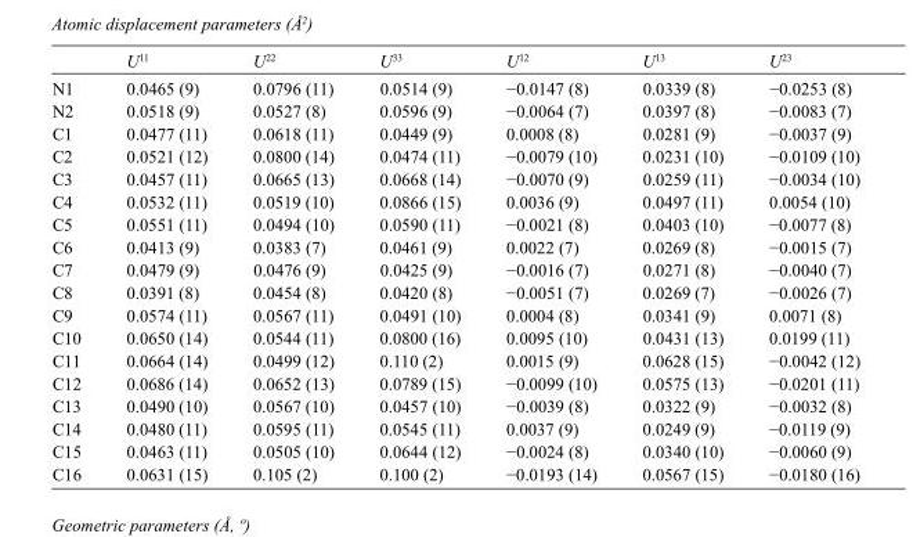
<table><thead><tr><td></td><td>U<sup>11</sup></td><td>U<sup>22</sup></td><td>U<sup>33</sup></td><td>U<sup>12</sup></td><td>U<sup>13</sup></td><td>U<sup>23</sup></td></tr></thead><tbody><tr><td>N1</td><td>0.0465 (9)</td><td>0.0796 (11)</td><td>0.0514 (9)</td><td>−0.0147 (8)</td><td>0.0339 (8)</td><td>−0.0253 (8)</td></tr><tr><td>N2</td><td>0.0518 (9)</td><td>0.0527 (8)</td><td>0.0596 (9)</td><td>−0.0064 (7)</td><td>0.0397 (8)</td><td>−0.0083 (7)</td></tr><tr><td>C1</td><td>0.0477 (11)</td><td>0.0618 (11)</td><td>0.0449 (9)</td><td>0.0008 (8)</td><td>0.0281 (9)</td><td>−0.0037 (9)</td></tr><tr><td>C2</td><td>0.0521 (12)</td><td>0.0800 (14)</td><td>0.0474 (11)</td><td>−0.0079 (10)</td><td>0.0231 (10)</td><td>−0.0109 (10)</td></tr><tr><td>C3</td><td>0.0457 (11)</td><td>0.0665 (13)</td><td>0.0668 (14)</td><td>−0.0070 (9)</td><td>0.0259 (11)</td><td>−0.0034 (10)</td></tr><tr><td>C4</td><td>0.0532 (11)</td><td>0.0519 (10)</td><td>0.0866 (15)</td><td>0.0036 (9)</td><td>0.0497 (11)</td><td>0.0054 (10)</td></tr><tr><td>C5</td><td>0.0551 (11)</td><td>0.0494 (10)</td><td>0.0590 (11)</td><td>−0.0021 (8)</td><td>0.0403 (10)</td><td>−0.0077 (8)</td></tr><tr><td>C6</td><td>0.0413 (9)</td><td>0.0383 (7)</td><td>0.0461 (9)</td><td>0.0022 (7)</td><td>0.0269 (8)</td><td>−0.0015 (7)</td></tr><tr><td>C7</td><td>0.0479 (9)</td><td>0.0476 (9)</td><td>0.0425 (9)</td><td>−0.0016 (7)</td><td>0.0271 (8)</td><td>−0.0040 (7)</td></tr><tr><td>C8</td><td>0.0391 (8)</td><td>0.0454 (8)</td><td>0.0420 (8)</td><td>−0.0051 (7)</td><td>0.0269 (7)</td><td>−0.0026 (7)</td></tr><tr><td>C9</td><td>0.0574 (11)</td><td>0.0567 (11)</td><td>0.0491 (10)</td><td>0.0004 (8)</td><td>0.0341 (9)</td><td>0.0071 (8)</td></tr><tr><td>C10</td><td>0.0650 (14)</td><td>0.0544 (11)</td><td>0.0800 (16)</td><td>0.0095 (10)</td><td>0.0431 (13)</td><td>0.0199 (11)</td></tr><tr><td>C11</td><td>0.0664 (14)</td><td>0.0499 (12)</td><td>0.110 (2)</td><td>0.0015 (9)</td><td>0.0628 (15)</td><td>−0.0042 (12)</td></tr><tr><td>C12</td><td>0.0686 (14)</td><td>0.0652 (13)</td><td>0.0789 (15)</td><td>−0.0099 (10)</td><td>0.0575 (13)</td><td>−0.0201 (11)</td></tr><tr><td>C13</td><td>0.0490 (10)</td><td>0.0567 (10)</td><td>0.0457 (10)</td><td>−0.0039 (8)</td><td>0.0322 (9)</td><td>−0.0032 (8)</td></tr><tr><td>C14</td><td>0.0480 (11)</td><td>0.0595 (11)</td><td>0.0545 (11)</td><td>0.0037 (9)</td><td>0.0249 (9)</td><td>−0.0119 (9)</td></tr><tr><td>C15</td><td>0.0463 (11)</td><td>0.0505 (10)</td><td>0.0644 (12)</td><td>−0.0024 (8)</td><td>0.0340 (10)</td><td>−0.0060 (9)</td></tr><tr><td>C16</td><td>0.0631 (15)</td><td>0.105 (2)</td><td>0.100 (2)</td><td>−0.0193 (14)</td><td>0.0567 (15)</td><td>−0.0180 (16)</td></tr></tbody></table>